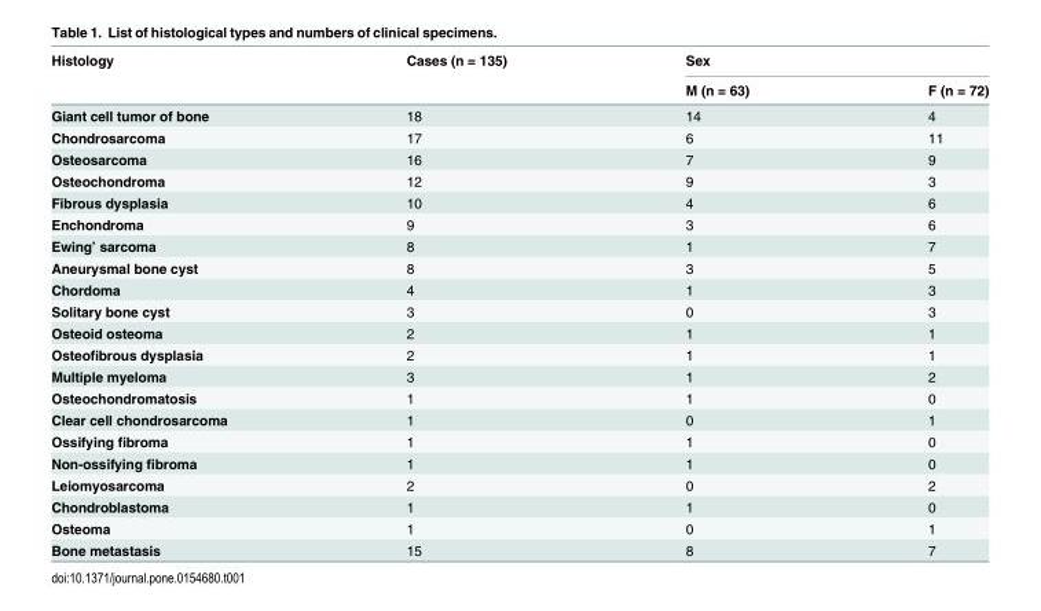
<table><thead><tr><td rowspan="2">Histology</td><td rowspan="2">Cases (n = 135)</td><td colspan="2">Sex</td></tr><tr><td>M (n = 63)</td><td>F (n = 72)</td></tr></thead><tbody><tr><td>Giant cell tumor of bone</td><td>18</td><td>14</td><td>4</td></tr><tr><td>Chondrosarcoma</td><td>17</td><td>6</td><td>11</td></tr><tr><td>Osteosarcoma</td><td>16</td><td>7</td><td>9</td></tr><tr><td>Osteochondroma</td><td>12</td><td>9</td><td>3</td></tr><tr><td>Fibrous dysplasia</td><td>10</td><td>4</td><td>6</td></tr><tr><td>Enchondroma</td><td>9</td><td>3</td><td>6</td></tr><tr><td>Ewing’ sarcoma</td><td>8</td><td>1</td><td>7</td></tr><tr><td>Aneurysmal bone cyst</td><td>8</td><td>3</td><td>5</td></tr><tr><td>Chordoma</td><td>4</td><td>1</td><td>3</td></tr><tr><td>Solitary bone cyst</td><td>3</td><td>0</td><td>3</td></tr><tr><td>Osteoid osteoma</td><td>2</td><td>1</td><td>1</td></tr><tr><td>Osteofibrous dysplasia</td><td>2</td><td>1</td><td>1</td></tr><tr><td>Multiple myeloma</td><td>3</td><td>1</td><td>2</td></tr><tr><td>Osteochondromatosis</td><td>1</td><td>1</td><td>0</td></tr><tr><td>Clear cell chondrosarcoma</td><td>1</td><td>0</td><td>1</td></tr><tr><td>Ossifying fibroma</td><td>1</td><td>1</td><td>0</td></tr><tr><td>Non-ossifying fibroma</td><td>1</td><td>1</td><td>0</td></tr><tr><td>Leiomyosarcoma</td><td>2</td><td>0</td><td>2</td></tr><tr><td>Chondroblastoma</td><td>1</td><td>1</td><td>0</td></tr><tr><td>Osteoma</td><td>1</td><td>0</td><td>1</td></tr><tr><td>Bone metastasis</td><td>15</td><td>8</td><td>7</td></tr></tbody></table>